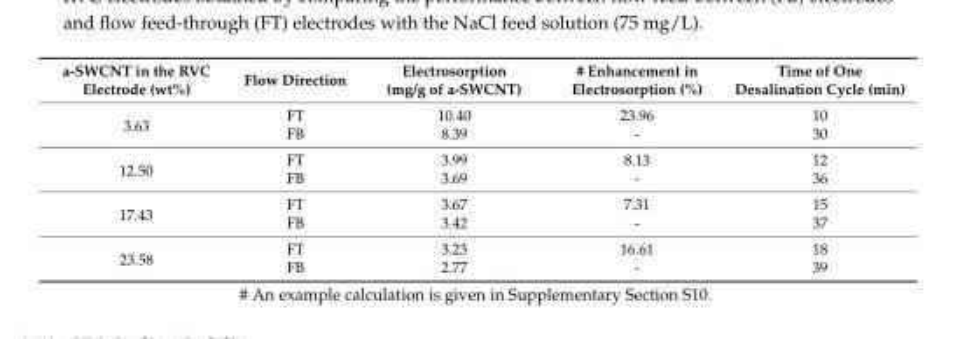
<table><thead><tr><td>a-SWCNT in the RVC Electrode (wt%)</td><td>Flow Direction</td><td>Electrosorption (mg/g of a-SWCNT)</td><td># Enhancement in Electrosorption (%)</td><td>Time of One Desalination Cycle (min)</td></tr></thead><tbody><tr><td rowspan="2">3.63</td><td>FT</td><td>10.40</td><td>23.96</td><td>10</td></tr><tr><td>FB</td><td>8.39</td><td>-</td><td>30</td></tr><tr><td rowspan="2">12.50</td><td>FT</td><td>3.99</td><td>8.13</td><td>12</td></tr><tr><td>FB</td><td>3.69</td><td>-</td><td>36</td></tr><tr><td rowspan="2">17.43</td><td>FT</td><td>3.67</td><td>7.31</td><td>15</td></tr><tr><td>FB</td><td>3.42</td><td>-</td><td>37</td></tr><tr><td rowspan="2">23.58</td><td>FT</td><td>3.23</td><td>16.61</td><td>18</td></tr><tr><td>FB</td><td>2.77</td><td>-</td><td>39</td></tr></tbody></table>